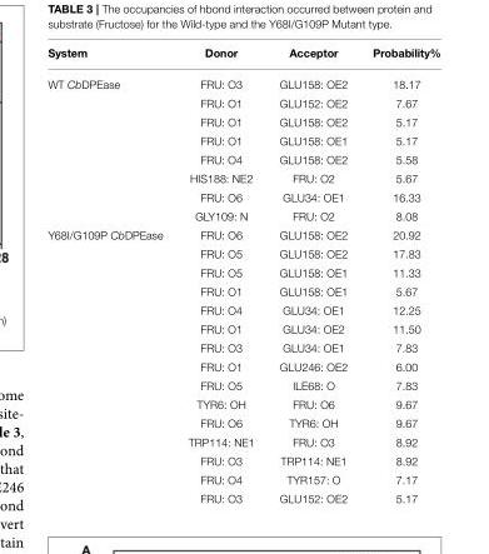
<table><thead><tr><td>System</td><td>Donor</td><td>Acceptor</td><td>Probability%</td></tr></thead><tbody><tr><td rowspan="8">WT CbDPEase</td><td>FRU: O3</td><td>GLU158: OE2</td><td>18.17</td></tr><tr><td>FRU: O1</td><td>GLU152: OE2</td><td>7.67</td></tr><tr><td>FRU: O1</td><td>GLU158: OE2</td><td>5.17</td></tr><tr><td>FRU: O1</td><td>GLU158: OE1</td><td>5.17</td></tr><tr><td>FRU: O4</td><td>GLU158: OE2</td><td>5.58</td></tr><tr><td>HIS188: NE2</td><td>FRU: O2</td><td>5.67</td></tr><tr><td>FRU: O6</td><td>GLU34: OE1</td><td>16.33</td></tr><tr><td>GLY109: N</td><td>FRU: O2</td><td>8.08</td></tr><tr><td rowspan="15">Y68I/G109P CbDPEase</td><td>FRU: O6</td><td>GLU158: OE2</td><td>20.92</td></tr><tr><td>FRU: O5</td><td>GLU158: OE2</td><td>17.83</td></tr><tr><td>FRU: O5</td><td>GLU158: OE1</td><td>11.33</td></tr><tr><td>FRU: O1</td><td>GLU158: OE1</td><td>5.67</td></tr><tr><td>FRU: O4</td><td>GLU34: OE1</td><td>12.25</td></tr><tr><td>FRU: O1</td><td>GLU34: OE2</td><td>11.50</td></tr><tr><td>FRU: O3</td><td>GLU34: OE1</td><td>7.83</td></tr><tr><td>FRU: O1</td><td>GLU246: OE2</td><td>6.00</td></tr><tr><td>FRU: O5</td><td>ILE68: O</td><td>7.83</td></tr><tr><td>TYR6: OH</td><td>FRU: O6</td><td>9.67</td></tr><tr><td>FRU: O6</td><td>TYR6: OH</td><td>9.67</td></tr><tr><td>TRP114: NE1</td><td>FRU: O3</td><td>8.92</td></tr><tr><td>FRU: O3</td><td>TRP114: NE1</td><td>8.92</td></tr><tr><td>FRU: O4</td><td>TYR157: O</td><td>7.17</td></tr><tr><td>FRU: O3</td><td>GLU152: OE2</td><td>5.17</td></tr></tbody></table>